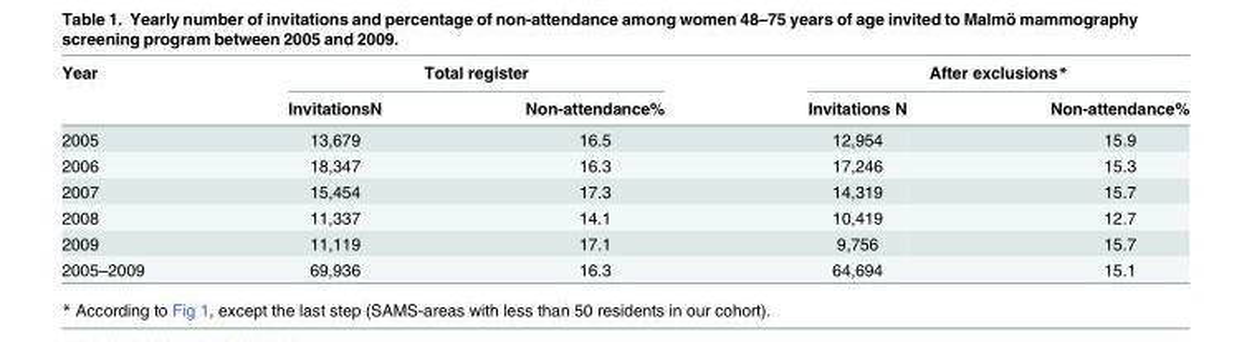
<table><thead><tr><td rowspan="2">Year</td><td colspan="2">Total register</td><td colspan="2">After exclusions*</td></tr><tr><td>InvitationsN</td><td>Non-attendance%</td><td>Invitations N</td><td>Non-attendance%</td></tr></thead><tbody><tr><td>2005</td><td>13,679</td><td>16.5</td><td>12,954</td><td>15.9</td></tr><tr><td>2006</td><td>18,347</td><td>16.3</td><td>17,246</td><td>15.3</td></tr><tr><td>2007</td><td>15,454</td><td>17.3</td><td>14,319</td><td>15.7</td></tr><tr><td>2008</td><td>11,337</td><td>14.1</td><td>10,419</td><td>12.7</td></tr><tr><td>2009</td><td>11,119</td><td>17.1</td><td>9,756</td><td>15.7</td></tr><tr><td>2005–2009</td><td>69,936</td><td>16.3</td><td>64,694</td><td>15.1</td></tr></tbody></table>